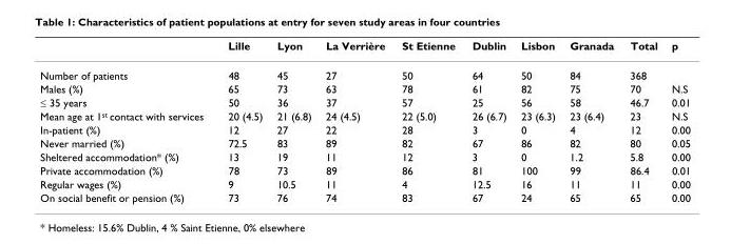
<table><thead><tr><td></td><td>Lille</td><td>Lyon</td><td>La Verrière</td><td>St Etienne</td><td>Dublin</td><td>Lisbon</td><td>Granada</td><td>Total</td><td>p</td></tr></thead><tbody><tr><td>Number of patients</td><td>48</td><td>45</td><td>27</td><td>50</td><td>64</td><td>50</td><td>84</td><td>368</td><td></td></tr><tr><td>Males (%)</td><td>65</td><td>73</td><td>63</td><td>78</td><td>61</td><td>82</td><td>75</td><td>70</td><td>N.S</td></tr><tr><td>≤ 35 years</td><td>50</td><td>36</td><td>37</td><td>57</td><td>25</td><td>56</td><td>58</td><td>46.7</td><td>0.01</td></tr><tr><td>Mean age at 1<sup>st</sup> contact with services</td><td>20 (4.5)</td><td>21 (6.8)</td><td>24 (4.5)</td><td>22 (5.0)</td><td>26 (6.7)</td><td>23 (6.3)</td><td>23 (6.4)</td><td>23</td><td>N.S</td></tr><tr><td>In-patient (%)</td><td>12</td><td>27</td><td>22</td><td>28</td><td>3</td><td>0</td><td>4</td><td>12</td><td>0.00</td></tr><tr><td>Never married (%)</td><td>72.5</td><td>83</td><td>89</td><td>82</td><td>67</td><td>86</td><td>82</td><td>80</td><td>0.05</td></tr><tr><td>Sheltered accommodation* (%)</td><td>13</td><td>19</td><td>11</td><td>12</td><td>3</td><td>0</td><td>1.2</td><td>5.8</td><td>0.00</td></tr><tr><td>Private accommodation (%)</td><td>78</td><td>73</td><td>89</td><td>86</td><td>81</td><td>100</td><td>99</td><td>86.4</td><td>0.01</td></tr><tr><td>Regular wages (%)</td><td>9</td><td>10.5</td><td>11</td><td>4</td><td>12.5</td><td>16</td><td>11</td><td>11</td><td>0.00</td></tr><tr><td>On social benefit or pension (%)</td><td>73</td><td>76</td><td>74</td><td>83</td><td>67</td><td>24</td><td>65</td><td>65</td><td>0.00</td></tr></tbody></table>